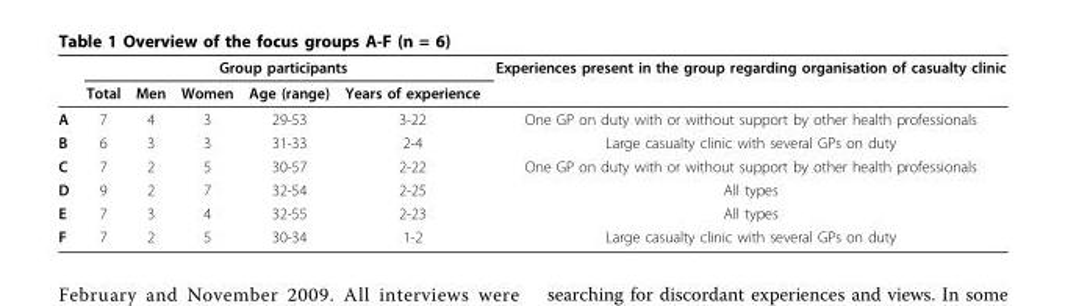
<table><thead><tr><td rowspan="2"></td><td colspan="5">Group participants</td><td rowspan="2">Experiences present in the group regarding organisation of casualty clinic</td></tr><tr><td>Total</td><td>Men</td><td>Women</td><td>Age (range)</td><td>Years of experience</td></tr></thead><tbody><tr><td>A</td><td>7</td><td>4</td><td>3</td><td>29-53</td><td>3-22</td><td>One GP on duty with or without support by other health professionals</td></tr><tr><td>B</td><td>6</td><td>3</td><td>3</td><td>31-33</td><td>2-4</td><td>Large casualty clinic with several GPs on duty</td></tr><tr><td>C</td><td>7</td><td>2</td><td>5</td><td>30-57</td><td>2-22</td><td>One GP on duty with or without support by other health professionals</td></tr><tr><td>D</td><td>9</td><td>2</td><td>7</td><td>32-54</td><td>2-25</td><td>All types</td></tr><tr><td>E</td><td>7</td><td>3</td><td>4</td><td>32-55</td><td>2-23</td><td>All types</td></tr><tr><td>F</td><td>7</td><td>2</td><td>5</td><td>30-34</td><td>1-2</td><td>Large casualty clinic with several GPs on duty</td></tr></tbody></table>